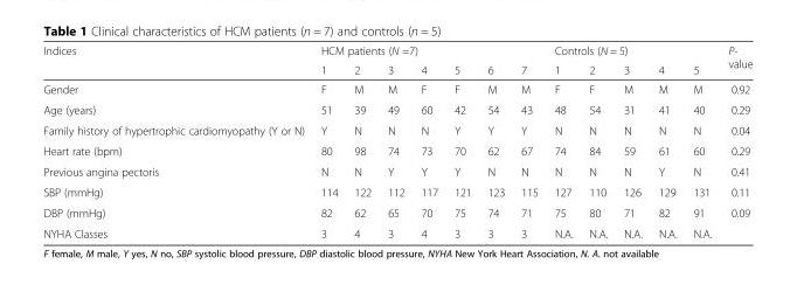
<table><thead><tr><td rowspan="2">Indices</td><td colspan="7">HCM patients (N =7)</td><td colspan="5">Controls (N = 5)</td><td rowspan="2">P- value</td></tr><tr><td>1</td><td>2</td><td>3</td><td>4</td><td>5</td><td>6</td><td>7</td><td>1</td><td>2</td><td>3</td><td>4</td><td>5</td></tr></thead><tbody><tr><td>Gender</td><td>F</td><td>M</td><td>M</td><td>F</td><td>F</td><td>M</td><td>M</td><td>F</td><td>F</td><td>M</td><td>M</td><td>M</td><td>0.92</td></tr><tr><td>Age (years)</td><td>51</td><td>39</td><td>49</td><td>60</td><td>42</td><td>54</td><td>43</td><td>48</td><td>54</td><td>31</td><td>41</td><td>40</td><td>0.29</td></tr><tr><td>Family history of hypertrophic cardiomyopathy (Y or N)</td><td>Y</td><td>N</td><td>N</td><td>N</td><td>Y</td><td>Y</td><td>Y</td><td>N</td><td>N</td><td>N</td><td>N</td><td>N</td><td>0.04</td></tr><tr><td>Heart rate (bpm)</td><td>80</td><td>98</td><td>74</td><td>73</td><td>70</td><td>62</td><td>67</td><td>74</td><td>84</td><td>59</td><td>61</td><td>60</td><td>0.29</td></tr><tr><td>Previous angina pectoris</td><td>N</td><td>N</td><td>Y</td><td>Y</td><td>Y</td><td>N</td><td>N</td><td>N</td><td>N</td><td>N</td><td>Y</td><td>N</td><td>0.41</td></tr><tr><td>SBP (mmHg)</td><td>114</td><td>122</td><td>112</td><td>117</td><td>121</td><td>123</td><td>115</td><td>127</td><td>110</td><td>126</td><td>129</td><td>131</td><td>0.11</td></tr><tr><td>DBP (mmHg)</td><td>82</td><td>62</td><td>65</td><td>70</td><td>75</td><td>74</td><td>71</td><td>75</td><td>80</td><td>71</td><td>82</td><td>91</td><td>0.09</td></tr><tr><td>NYHA Classes</td><td>3</td><td>4</td><td>3</td><td>4</td><td>3</td><td>3</td><td>3</td><td>N.A.</td><td>N.A.</td><td>N.A.</td><td>N.A.</td><td>N.A.</td><td></td></tr></tbody></table>